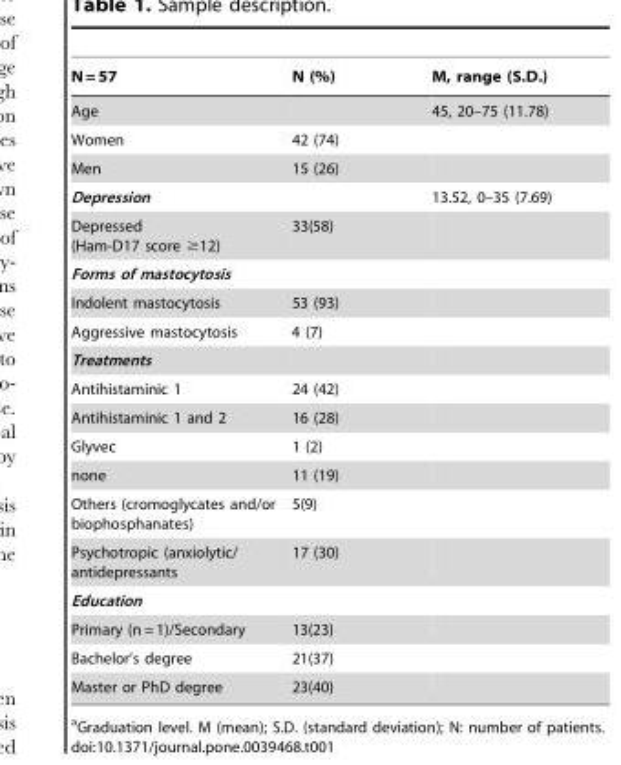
<table><thead><tr><td>N = 57</td><td>N (%)</td><td>M, range (S.D.)</td></tr></thead><tbody><tr><td>Age</td><td></td><td>45, 20–75 (11.78)</td></tr><tr><td>Women</td><td>42 (74)</td><td></td></tr><tr><td>Men</td><td>15 (26)</td><td></td></tr><tr><td>Depression</td><td></td><td>13.52, 0–35 (7.69)</td></tr><tr><td>Depressed (Ham-D17 score ≥12)</td><td>33(58)</td><td></td></tr><tr><td colspan="3">Forms of mastocytosis</td></tr><tr><td>Indolent mastocytosis</td><td>53 (93)</td><td></td></tr><tr><td>Aggressive mastocytosis</td><td>4 (7)</td><td></td></tr><tr><td colspan="3">Treatments</td></tr><tr><td>Antihistaminic 1</td><td>24 (42)</td><td></td></tr><tr><td>Antihistaminic 1 and 2</td><td>16 (28)</td><td></td></tr><tr><td>Glyvec</td><td>1 (2)</td><td></td></tr><tr><td>none</td><td>11 (19)</td><td></td></tr><tr><td>Others (cromoglycates and/or biophosphanates)</td><td>5(9)</td><td></td></tr><tr><td>Psychotropic (anxiolytic/ antidepressants</td><td>17 (30)</td><td></td></tr><tr><td colspan="3">Education</td></tr><tr><td>Primary (n = 1)/Secondary</td><td>13(23)</td><td></td></tr><tr><td>Bachelor’s degree</td><td>21(37)</td><td></td></tr><tr><td>Master or PhD degree</td><td>23(40)</td><td></td></tr></tbody></table>